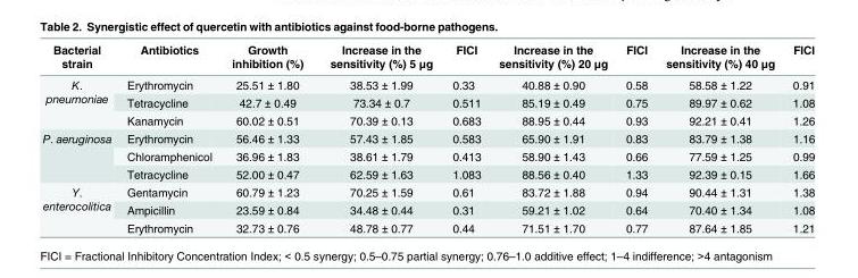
<table><thead><tr><td>Bacterial strain</td><td>Antibiotics</td><td>Growth inhibition (%)</td><td>Increase in the sensitivity (%) 5 μg</td><td>FICI</td><td>Increase in the sensitivity (%) 20 μg</td><td>FICI</td><td>Increase in the sensitivity (%) 40 μg</td><td>FICI</td></tr></thead><tbody><tr><td rowspan="3">K. pneumoniae</td><td>Erythromycin</td><td>25.51 ± 1.80</td><td>38.53 ± 1.99</td><td>0.33</td><td>40.88 ± 0.90</td><td>0.58</td><td>58.58 ± 1.22</td><td>0.91</td></tr><tr><td>Tetracycline</td><td>42.7 ± 0.49</td><td>73.34 ± 0.7</td><td>0.511</td><td>85.19 ± 0.49</td><td>0.75</td><td>89.97 ± 0.62</td><td>1.08</td></tr><tr><td>Kanamycin</td><td>60.02 ± 0.51</td><td>70.39 ± 0.13</td><td>0.683</td><td>88.95 ± 0.44</td><td>0.93</td><td>92.21 ± 0.41</td><td>1.26</td></tr><tr><td rowspan="3">P. aeruginosa</td><td>Erythromycin</td><td>56.46 ± 1.33</td><td>57.43 ± 1.85</td><td>0.583</td><td>65.90 ± 1.91</td><td>0.83</td><td>83.79 ± 1.38</td><td>1.16</td></tr><tr><td>Chloramphenicol</td><td>36.96 ± 1.83</td><td>38.61 ± 1.79</td><td>0.413</td><td>58.90 ± 1.43</td><td>0.66</td><td>77.59 ± 1.25</td><td>0.99</td></tr><tr><td>Tetracycline</td><td>52.00 ± 0.47</td><td>62.59 ± 1.63</td><td>1.083</td><td>88.56 ± 0.40</td><td>1.33</td><td>92.39 ± 0.15</td><td>1.66</td></tr><tr><td rowspan="3">Y. enterocolitica</td><td>Gentamycin</td><td>60.79 ± 1.23</td><td>70.25 ± 1.59</td><td>0.61</td><td>83.72 ± 1.88</td><td>0.94</td><td>90.44 ± 1.31</td><td>1.38</td></tr><tr><td>Ampicillin</td><td>23.59 ± 0.84</td><td>34.48 ± 0.44</td><td>0.31</td><td>59.21 ± 1.02</td><td>0.64</td><td>70.40 ± 1.34</td><td>1.08</td></tr><tr><td>Erythromycin</td><td>32.73 ± 0.76</td><td>48.78 ± 0.77</td><td>0.44</td><td>71.51 ± 1.70</td><td>0.77</td><td>87.64 ± 1.85</td><td>1.21</td></tr></tbody></table>